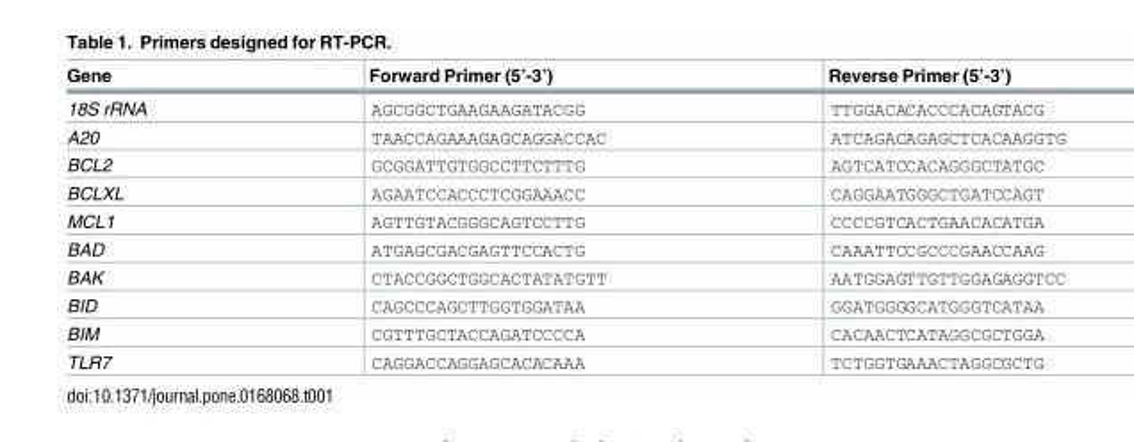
<table><thead><tr><td>Gene</td><td>Forward Primer (5’-3’)</td><td>Reverse Primer (5’-3’)</td></tr></thead><tbody><tr><td>18S rRNA</td><td>AGCGGCTGAAGAAGATACGG</td><td>TTGGACACACCCACAGTACG</td></tr><tr><td>A20</td><td>TAACCAGAAAGAGCAGGACCAC</td><td>ATCAGACAGAGCTCACAAGGTG</td></tr><tr><td>BCL2</td><td>GCGGATTGTGGCCTTCTTTG</td><td>AGTCATCCACAGGGCTATGC</td></tr><tr><td>BCLXL</td><td>AGAATCCACCCTCGGAAACC</td><td>CAGGAATGGGCTGATCCAGT</td></tr><tr><td>MCL1</td><td>AGTTGTACGGGCAGTCCTTG</td><td>CCCCGTCACTGAACACATGA</td></tr><tr><td>BAD</td><td>ATGAGCGACGAGTTCCACTG</td><td>CAAATTCCGCCCGAACCAAG</td></tr><tr><td>BAK</td><td>CTACCGGCTGGCACTATATGTT</td><td>AATGGAGTTGTTGGAGAGGTCC</td></tr><tr><td>BID</td><td>CAGCCCAGCTTGGTGGATAA</td><td>GGATGGGGCATGGGTCATAA</td></tr><tr><td>BIM</td><td>CGTTTGCTACCAGATCCCCA</td><td>CACAACTCATAGGCGCTGGA</td></tr><tr><td>TLR7</td><td>CAGGACCAGGAGCACACAAA</td><td>TCTGGTGAAACTAGGCGCTG</td></tr></tbody></table>